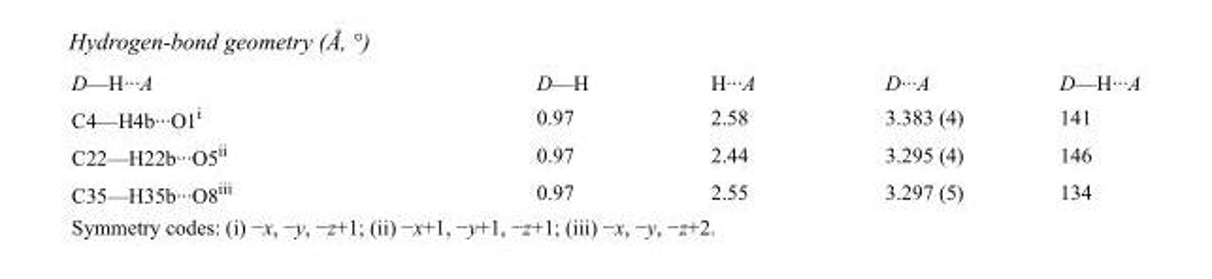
<table><tbody><tr><td>D—H···A</td><td>D—H</td><td>H···A</td><td>D···A</td><td>D—H···A</td></tr><tr><td>C4—H4b···O1<sup>i</sup></td><td>0.97</td><td>2.58</td><td>3.383 (4)</td><td>141</td></tr><tr><td>C22—H22b···O5<sup>ii</sup></td><td>0.97</td><td>2.44</td><td>3.295 (4)</td><td>146</td></tr><tr><td>C35—H35b···O8<sup>iii</sup></td><td>0.97</td><td>2.55</td><td>3.297 (5)</td><td>134</td></tr></tbody></table>